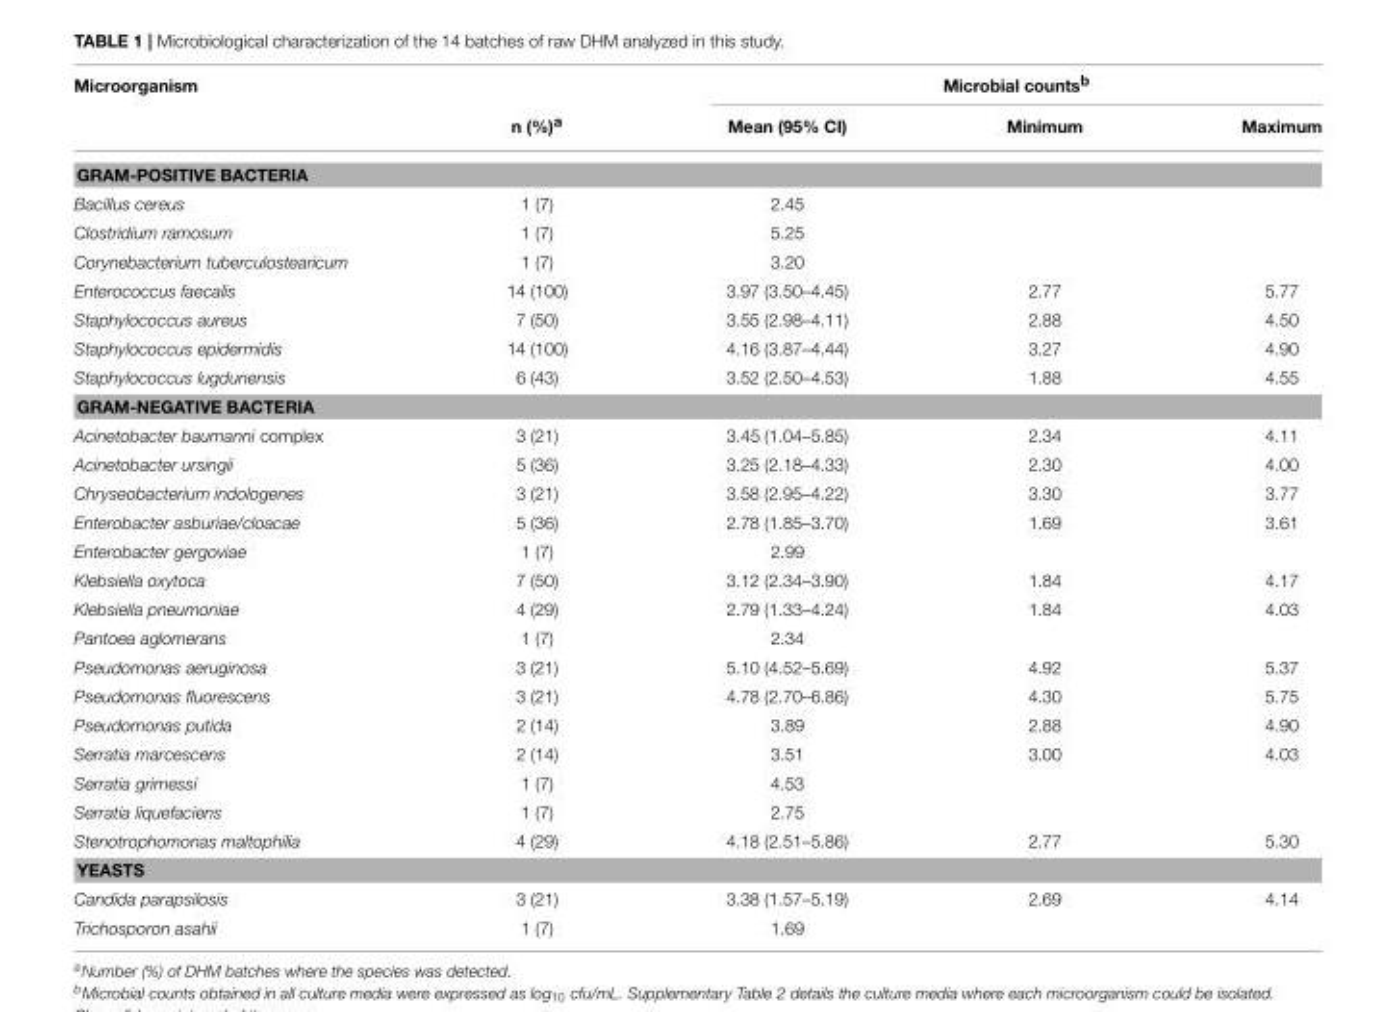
<table><thead><tr><td rowspan="2">Microorganism</td><td rowspan="2">n (%)<sup>a</sup></td><td colspan="3">Microbial counts<sup>b</sup></td></tr><tr><td>Mean (95% CI)</td><td>Minimum</td><td>Maximum</td></tr></thead><tbody><tr><td colspan="5">GRAM-POSITIVE BACTERIA</td></tr><tr><td>Bacillus cereus</td><td>1 (7)</td><td>2.45</td><td></td><td></td></tr><tr><td>Clostridium ramosum</td><td>1 (7)</td><td>5.25</td><td></td><td></td></tr><tr><td>Corynebacterium tuberculostearicum</td><td>1 (7)</td><td>3.20</td><td></td><td></td></tr><tr><td>Enterococcus faecalis</td><td>14 (100)</td><td>3.97 (3.50–4.45)</td><td>2.77</td><td>5.77</td></tr><tr><td>Staphylococcus aureus</td><td>7 (50)</td><td>3.55 (2.98–4.11)</td><td>2.88</td><td>4.50</td></tr><tr><td>Staphylococcus epidermidis</td><td>14 (100)</td><td>4.16 (3.87–4.44)</td><td>3.27</td><td>4.90</td></tr><tr><td>Staphylococcus lugdunensis</td><td>6 (43)</td><td>3.52 (2.50–4.53)</td><td>1.88</td><td>4.55</td></tr><tr><td colspan="5">GRAM-NEGATIVE BACTERIA</td></tr><tr><td>Acinetobacter baumanni complex</td><td>3 (21)</td><td>3.45 (1.04–5.85)</td><td>2.34</td><td>4.11</td></tr><tr><td>Acinetobacter ursingii</td><td>5 (36)</td><td>3.25 (2.18–4.33)</td><td>2.30</td><td>4.00</td></tr><tr><td>Chryseobacterium indologenes</td><td>3 (21)</td><td>3.58 (2.95–4.22)</td><td>3.30</td><td>3.77</td></tr><tr><td>Enterobacter asburiae/cloacae</td><td>5 (36)</td><td>2.78 (1.85–3.70)</td><td>1.69</td><td>3.61</td></tr><tr><td>Enterobacter gergoviae</td><td>1 (7)</td><td>2.99</td><td></td><td></td></tr><tr><td>Klebsiella oxytoca</td><td>7 (50)</td><td>3.12 (2.34–3.90)</td><td>1.84</td><td>4.17</td></tr><tr><td>Klebsiella pneumoniae</td><td>4 (29)</td><td>2.79 (1.33–4.24)</td><td>1.84</td><td>4.03</td></tr><tr><td>Pantoea aglomerans</td><td>1 (7)</td><td>2.34</td><td></td><td></td></tr><tr><td>Pseudomonas aeruginosa</td><td>3 (21)</td><td>5.10 (4.52–5.69)</td><td>4.92</td><td>5.37</td></tr><tr><td>Pseudomonas fluorescens</td><td>3 (21)</td><td>4.78 (2.70–6.86)</td><td>4.30</td><td>5.75</td></tr><tr><td>Pseudomonas putida</td><td>2 (14)</td><td>3.89</td><td>2.88</td><td>4.90</td></tr><tr><td>Serratia marcescens</td><td>2 (14)</td><td>3.51</td><td>3.00</td><td>4.03</td></tr><tr><td>Serratia grimessi</td><td>1 (7)</td><td>4.53</td><td></td><td></td></tr><tr><td>Serratia liquefaciens</td><td>1 (7)</td><td>2.75</td><td></td><td></td></tr><tr><td>Stenotrophomonas maltophilia</td><td>4 (29)</td><td>4.18 (2.51–5.86)</td><td>2.77</td><td>5.30</td></tr><tr><td colspan="5">YEASTS</td></tr><tr><td>Candida parapsilosis</td><td>3 (21)</td><td>3.38 (1.57–5.19)</td><td>2.69</td><td>4.14</td></tr><tr><td>Trichosporon asahii</td><td>1 (7)</td><td>1.69</td><td></td><td></td></tr></tbody></table>